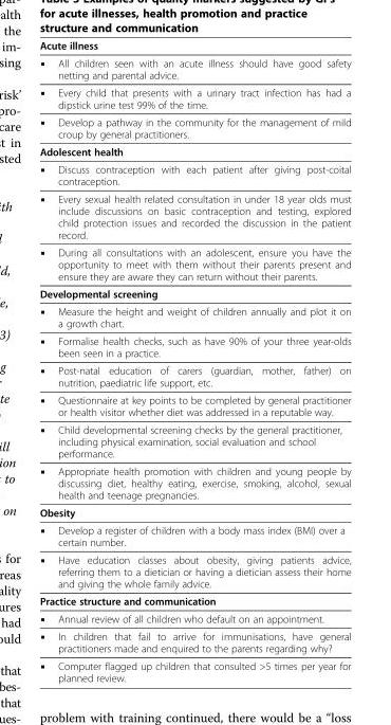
<table><tbody><tr><td colspan="2">Acute illness</td></tr><tr><td>▪</td><td>All children seen with an acute illness should have good safety netting and parental advice.</td></tr><tr><td>▪</td><td>Every child that presents with a urinary tract infection has had a dipstick urine test 99% of the time.</td></tr><tr><td>▪</td><td>Develop a pathway in the community for the management of mild croup by general practitioners.</td></tr><tr><td colspan="2">Adolescent health</td></tr><tr><td>▪</td><td>Discuss contraception with each patient after giving post-coital contraception.</td></tr><tr><td>▪</td><td>Every sexual health related consultation in under 18 year olds must include discussions on basic contraception and testing, explored child protection issues and recorded the discussion in the patient record.</td></tr><tr><td>▪</td><td>During all consultations with an adolescent, ensure you have the opportunity to meet with them without their parents present and ensure they are aware they can return without their parents.</td></tr><tr><td colspan="2">Developmental screening</td></tr><tr><td>▪</td><td>Measure the height and weight of children annually and plot it on a growth chart.</td></tr><tr><td>▪</td><td>Formalise health checks, such as have 90% of your three year-olds been seen in a practice.</td></tr><tr><td>▪</td><td>Post-natal education of carers (guardian, mother, father) on nutrition, paediatric life support, etc.</td></tr><tr><td>▪</td><td>Questionnaire at key points to be completed by general practitioner or health visitor whether diet was addressed in a reputable way.</td></tr><tr><td>▪</td><td>Child developmental screening checks by the general practitioner, including physical examination, social evaluation and school performance.</td></tr><tr><td>▪</td><td>Appropriate health promotion with children and young people by discussing diet, healthy eating, exercise, smoking, alcohol, sexual health and teenage pregnancies.</td></tr><tr><td colspan="2">Obesity</td></tr><tr><td>▪</td><td>Develop a register of children with a body mass index (BMI) over a certain number.</td></tr><tr><td>▪</td><td>Have education classes about obesity, giving patients advice, referring them to a dietician or having a dietician assess their home and giving the whole family advice.</td></tr><tr><td colspan="2">Practice structure and communication</td></tr><tr><td>▪</td><td>Annual review of all children who default on an appointment.</td></tr><tr><td>▪</td><td>In children that fail to arrive for immunisations, have general practitioners made and enquired to the parents regarding why?</td></tr><tr><td>▪</td><td>Computer flagged up children that consulted &gt;5 times per year for planned review.</td></tr></tbody></table>